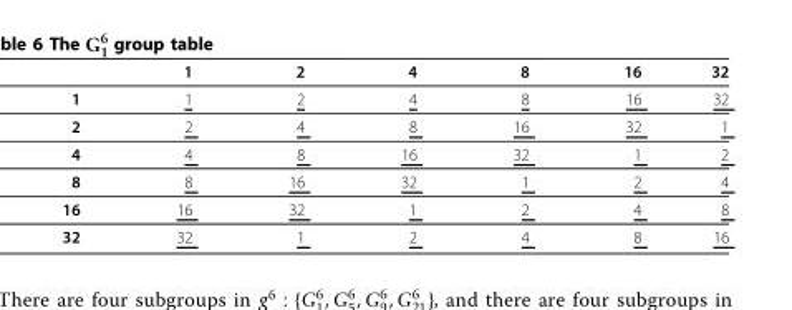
<table><thead><tr><td></td><td>1</td><td>2</td><td>4</td><td>8</td><td>16</td><td>32</td></tr></thead><tbody><tr><td>1</td><td>1</td><td>2</td><td>4</td><td>8</td><td>16</td><td>32</td></tr><tr><td>2</td><td>2</td><td>4</td><td>8</td><td>16</td><td>32</td><td>1</td></tr><tr><td>4</td><td>4</td><td>8</td><td>16</td><td>32</td><td>1</td><td>2</td></tr><tr><td>8</td><td>8</td><td>16</td><td>32</td><td>1</td><td>2</td><td>4</td></tr><tr><td>16</td><td>16</td><td>32</td><td>1</td><td>2</td><td>4</td><td>8</td></tr><tr><td>32</td><td>32</td><td>1</td><td>2</td><td>4</td><td>8</td><td>16</td></tr></tbody></table>